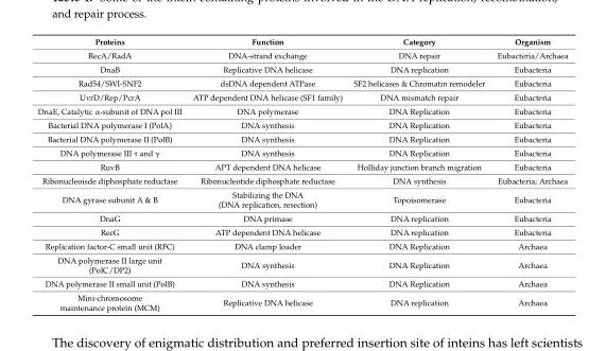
<table><thead><tr><td>Proteins</td><td>Function</td><td>Category</td><td>Organism</td></tr></thead><tbody><tr><td>RecA/RadA</td><td>DNA-strand exchange</td><td>DNA repair</td><td>Eubacteria/Archaea</td></tr><tr><td>DnaB</td><td>Replicative DNA helicase</td><td>DNA replication</td><td>Eubacteria</td></tr><tr><td>Rad54/SWI-SNF2</td><td>dsDNA dependent ATPase</td><td>SF2 helicases &amp; Chromatin remodeler</td><td>Eubacteria</td></tr><tr><td>UvrD/Rep/PcrA</td><td>ATP dependent DNA helicase (SF1 family)</td><td>DNA mismatch repair</td><td>Eubacteria</td></tr><tr><td>DnaE, Catalytic α-subunit of DNA pol III</td><td>DNA polymerase</td><td>DNA Replication</td><td>Eubacteria</td></tr><tr><td>Bacterial DNA polymerase I (PolA)</td><td>DNA synthesis</td><td>DNA Replication</td><td>Eubacteria</td></tr><tr><td>Bacterial DNA polymerase II (PolB)</td><td>DNA synthesis</td><td>DNA Replication</td><td>Eubacteria</td></tr><tr><td>DNA polymerase III τ and γ</td><td>DNA synthesis</td><td>DNA Replication</td><td>Eubacteria</td></tr><tr><td>RuvB</td><td>APT dependent DNA helicase</td><td>Holliday junction branch migration</td><td>Eubacteria</td></tr><tr><td>Ribonucleoisde diphosphate reductase</td><td>Ribonucleotide diphosphate reductase</td><td>DNA synthesis</td><td>Eubacteria; Archaea</td></tr><tr><td>DNA gyrase subunit A &amp; B</td><td>Stabilizing the DNA (DNA replication, resection)</td><td>Topoisomerase</td><td>Eubacteria</td></tr><tr><td>DnaG</td><td>DNA primase</td><td>DNA replication</td><td>Eubacteria</td></tr><tr><td>RecG</td><td>ATP dependent DNA helicase</td><td>DNA replication</td><td>Eubacteria</td></tr><tr><td>Replication factor-C small unit (RFC)</td><td>DNA clamp loader</td><td>DNA Replication</td><td>Archaea</td></tr><tr><td>DNA polymerase II large unit (PolC/DP2)</td><td>DNA synthesis</td><td>DNA Replication</td><td>Archaea</td></tr><tr><td>DNA polymerase II small unit (PolB)</td><td>DNA synthesis</td><td>DNA Replication</td><td>Archaea</td></tr><tr><td>Mini-chromosome maintenance protein (MCM)</td><td>Replicative DNA helicase</td><td>DNA replication</td><td>Archaea</td></tr></tbody></table>